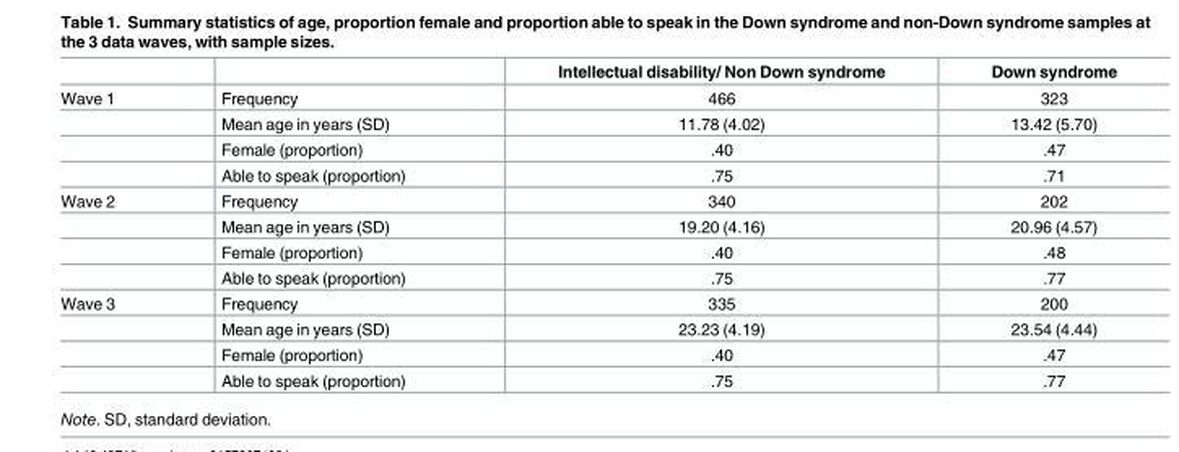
<table><thead><tr><td></td><td></td><td>Intellectual disability/ Non Down syndrome</td><td>Down syndrome</td></tr></thead><tbody><tr><td rowspan="4">Wave 1</td><td>Frequency</td><td>466</td><td>323</td></tr><tr><td>Mean age in years (SD)</td><td>11.78 (4.02)</td><td>13.42 (5.70)</td></tr><tr><td>Female (proportion)</td><td>.40</td><td>.47</td></tr><tr><td>Able to speak (proportion)</td><td>.75</td><td>.71</td></tr><tr><td rowspan="4">Wave 2</td><td>Frequency</td><td>340</td><td>202</td></tr><tr><td>Mean age in years (SD)</td><td>19.20 (4.16)</td><td>20.96 (4.57)</td></tr><tr><td>Female (proportion)</td><td>.40</td><td>.48</td></tr><tr><td>Able to speak (proportion)</td><td>.75</td><td>.77</td></tr><tr><td rowspan="4">Wave 3</td><td>Frequency</td><td>335</td><td>200</td></tr><tr><td>Mean age in years (SD)</td><td>23.23 (4.19)</td><td>23.54 (4.44)</td></tr><tr><td>Female (proportion)</td><td>.40</td><td>.47</td></tr><tr><td>Able to speak (proportion)</td><td>.75</td><td>.77</td></tr></tbody></table>